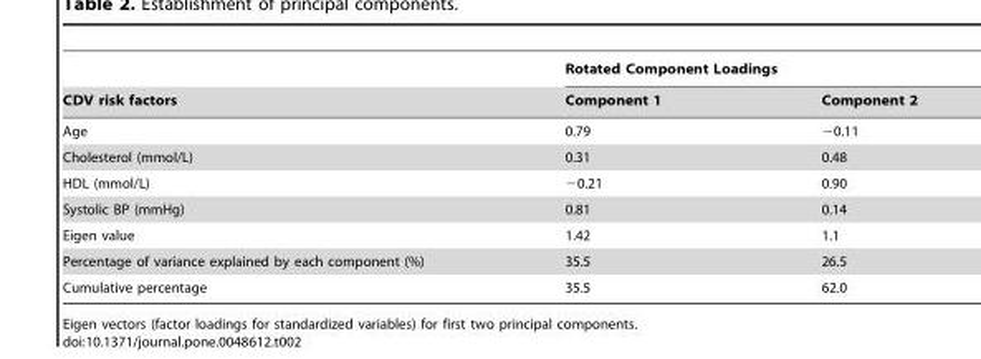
<table><thead><tr><td rowspan="2">CDV risk factors</td><td colspan="2">Rotated Component Loadings</td></tr><tr><td>Component 1</td><td>Component 2</td></tr></thead><tbody><tr><td>Age</td><td>0.79</td><td>−0.11</td></tr><tr><td>Cholesterol (mmol/L)</td><td>0.31</td><td>0.48</td></tr><tr><td>HDL (mmol/L)</td><td>−0.21</td><td>0.90</td></tr><tr><td>Systolic BP (mmHg)</td><td>0.81</td><td>0.14</td></tr><tr><td>Eigen value</td><td>1.42</td><td>1.1</td></tr><tr><td>Percentage of variance explained by each component (%)</td><td>35.5</td><td>26.5</td></tr><tr><td>Cumulative percentage</td><td>35.5</td><td>62.0</td></tr></tbody></table>